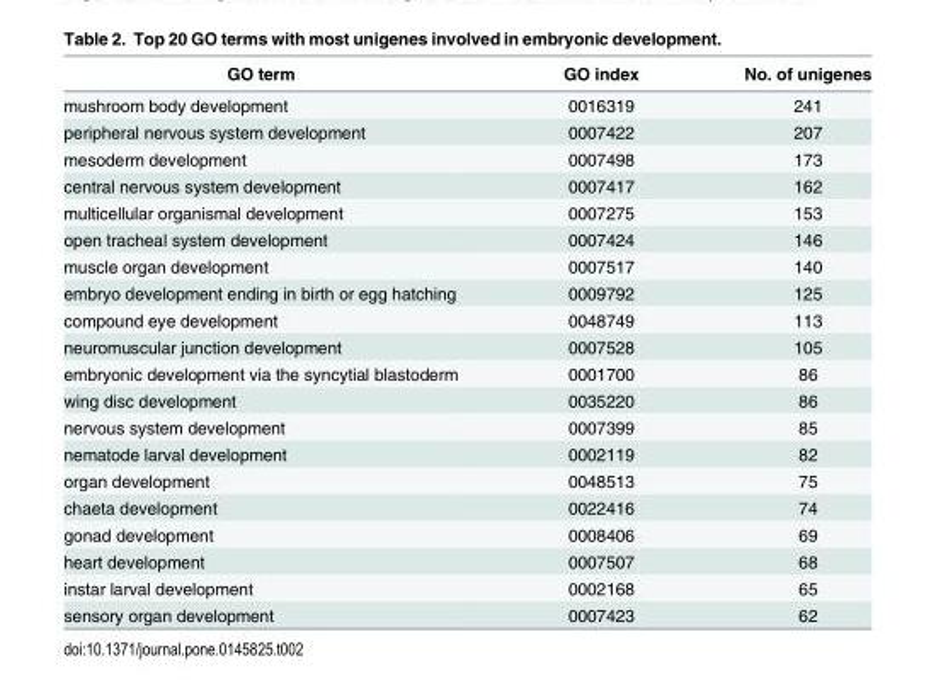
<table><thead><tr><td>GO term</td><td>GO index</td><td>No. of unigenes</td></tr></thead><tbody><tr><td>mushroom body development</td><td>0016319</td><td>241</td></tr><tr><td>peripheral nervous system development</td><td>0007422</td><td>207</td></tr><tr><td>mesoderm development</td><td>0007498</td><td>173</td></tr><tr><td>central nervous system development</td><td>0007417</td><td>162</td></tr><tr><td>multicellular organismal development</td><td>0007275</td><td>153</td></tr><tr><td>open tracheal system development</td><td>0007424</td><td>146</td></tr><tr><td>muscle organ development</td><td>0007517</td><td>140</td></tr><tr><td>embryo development ending in birth or egg hatching</td><td>0009792</td><td>125</td></tr><tr><td>compound eye development</td><td>0048749</td><td>113</td></tr><tr><td>neuromuscular junction development</td><td>0007528</td><td>105</td></tr><tr><td>embryonic development via the syncytial blastoderm</td><td>0001700</td><td>86</td></tr><tr><td>wing disc development</td><td>0035220</td><td>86</td></tr><tr><td>nervous system development</td><td>0007399</td><td>85</td></tr><tr><td>nematode larval development</td><td>0002119</td><td>82</td></tr><tr><td>organ development</td><td>0048513</td><td>75</td></tr><tr><td>chaeta development</td><td>0022416</td><td>74</td></tr><tr><td>gonad development</td><td>0008406</td><td>69</td></tr><tr><td>heart development</td><td>0007507</td><td>68</td></tr><tr><td>instar larval development</td><td>0002168</td><td>65</td></tr><tr><td>sensory organ development</td><td>0007423</td><td>62</td></tr></tbody></table>